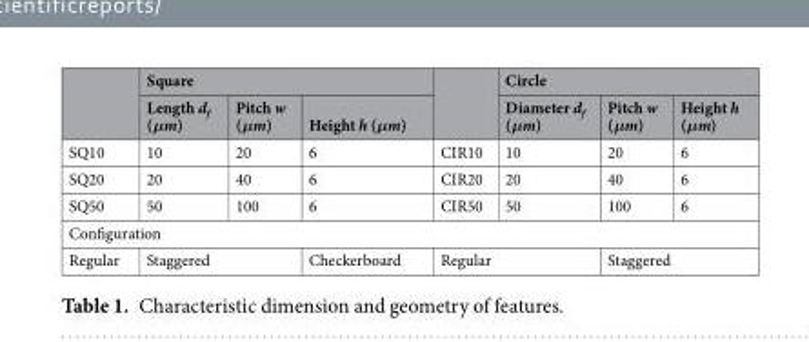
<table><thead><tr><td rowspan="2"></td><td colspan="3">Square</td><td rowspan="2"></td><td colspan="3">Circle</td></tr><tr><td>Length d<sub>f</sub> (μm)</td><td>Pitch w (μm)</td><td>Height h (μm)</td><td>Diameter d<sub>f</sub> (μm)</td><td>Pitch w (μm)</td><td>Height h (μm)</td></tr></thead><tbody><tr><td>SQ10</td><td>10</td><td>20</td><td>6</td><td>CIR10</td><td>10</td><td>20</td><td>6</td></tr><tr><td>SQ20</td><td>20</td><td>40</td><td>6</td><td>CIR20</td><td>20</td><td>40</td><td>6</td></tr><tr><td>SQ50</td><td>50</td><td>100</td><td>6</td><td>CIR50</td><td>50</td><td>100</td><td>6</td></tr><tr><td colspan="8">Configuration</td></tr><tr><td>Regular</td><td colspan="2">Staggered</td><td>Checkerboard</td><td colspan="2">Regular</td><td colspan="2">Staggered</td></tr></tbody></table>